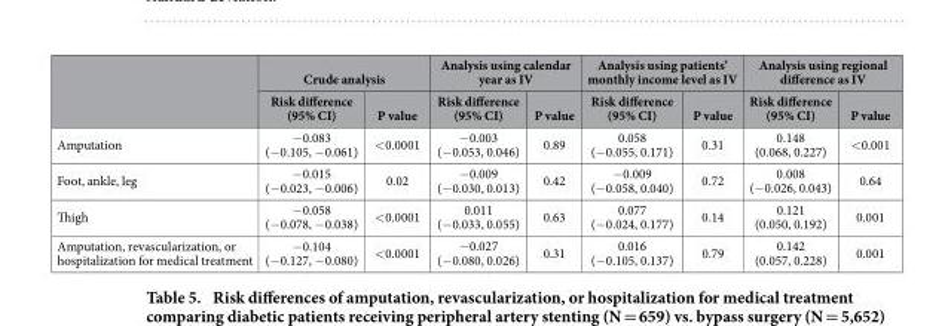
<table><thead><tr><td rowspan="2"></td><td colspan="2">Crude analysis</td><td colspan="2">Analysis using calendar year as IV</td><td colspan="2">Analysis using patients’ monthly income level as IV</td><td colspan="2">Analysis using regional difference as IV</td></tr><tr><td>Risk difference (95% CI)</td><td>P value</td><td>Risk difference (95% CI)</td><td>P value</td><td>Risk difference (95% CI)</td><td>P value</td><td>Risk difference (95% CI)</td><td>P value</td></tr></thead><tbody><tr><td>Amputation</td><td>− 0.083 (− 0.105, − 0.061)</td><td>&lt; 0.0001</td><td>− 0.003 (− 0.053, 0.046)</td><td>0.89</td><td>0.058 (− 0.055, 0.171)</td><td>0.31</td><td>0.148 (0.068, 0.227)</td><td>&lt; 0.001</td></tr><tr><td>Foot, ankle, leg</td><td>− 0.015 (− 0.023, − 0.006)</td><td>0.02</td><td>− 0.009 (− 0.030, 0.013)</td><td>0.42</td><td>− 0.009 (− 0.058, 0.040)</td><td>0.72</td><td>0.008 (− 0.026, 0.043)</td><td>0.64</td></tr><tr><td>Thigh</td><td>− 0.058 (− 0.078, − 0.038)</td><td>&lt; 0.0001</td><td>0.011 (− 0.033, 0.055)</td><td>0.63</td><td>0.077 (− 0.024, 0.177)</td><td>0.14</td><td>0.121 (0.050, 0.192)</td><td>0.001</td></tr><tr><td>Amputation, revascularization, or hospitalization for medical treatment</td><td>− 0.104 (− 0.127, − 0.080)</td><td>&lt; 0.0001</td><td>− 0.027 (− 0.080, 0.026)</td><td>0.31</td><td>0.016 (− 0.105, 0.137)</td><td>0.79</td><td>0.142 (0.057, 0.228)</td><td>0.001</td></tr></tbody></table>